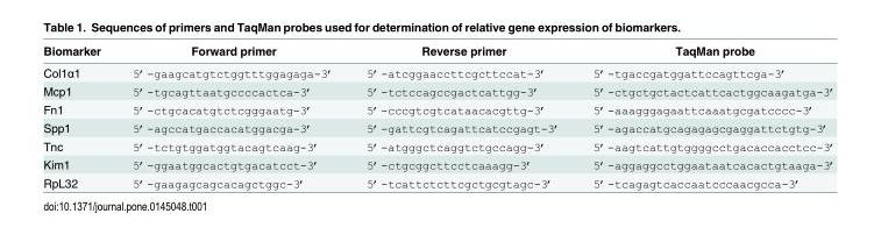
<table><thead><tr><td>Biomarker</td><td>Forward primer</td><td>Reverse primer</td><td>TaqMan probe</td></tr></thead><tbody><tr><td>Col1α1</td><td>5’-gaagcatgtctggtttggagaga-3’</td><td>5’-atcggaaccttcgcttccat-3’</td><td>5’-tgaccgatggattccagttcga-3’</td></tr><tr><td>Mcp1</td><td>5’-tgcagttaatgccccactca-3’</td><td>5’-tctccagccgactcattgg-3’</td><td>5’-ctgctgctactcattcactggcaagatga-3’</td></tr><tr><td>Fn1</td><td>5’-ctgcacatgtctcgggaatg-3’</td><td>5’-cccgtcgtcataacacgttg-3’</td><td>5’-aaagggagaattcaaatgcgatcccc-3’</td></tr><tr><td>Spp1</td><td>5’-agccatgaccacatggacga-3’</td><td>5’-gattcgtcagattcatccgagt-3’</td><td>5’-agaccatgcagagagcgaggattctgtg-3’</td></tr><tr><td>Tnc</td><td>5’-tctgtggatggtacagtcaag-3’</td><td>5’-atgggctcaggtctgccagg-3’</td><td>5’-aagtcattgtggggcctgacaccacctcc-3’</td></tr><tr><td>Kim1</td><td>5’-ggaatggcactgtgacatcct-3’</td><td>5’-ctgcggcttcctcaaagg-3’</td><td>5’-aggaggcctggaataatcacactgtaaga-3’</td></tr><tr><td>RpL32</td><td>5’-gaagagcagcacagctggc-3’</td><td>5’-tcattctcttcgctgcgtagc-3’</td><td>5’-tcagagtcaccaatcccaacgcca-3’</td></tr></tbody></table>